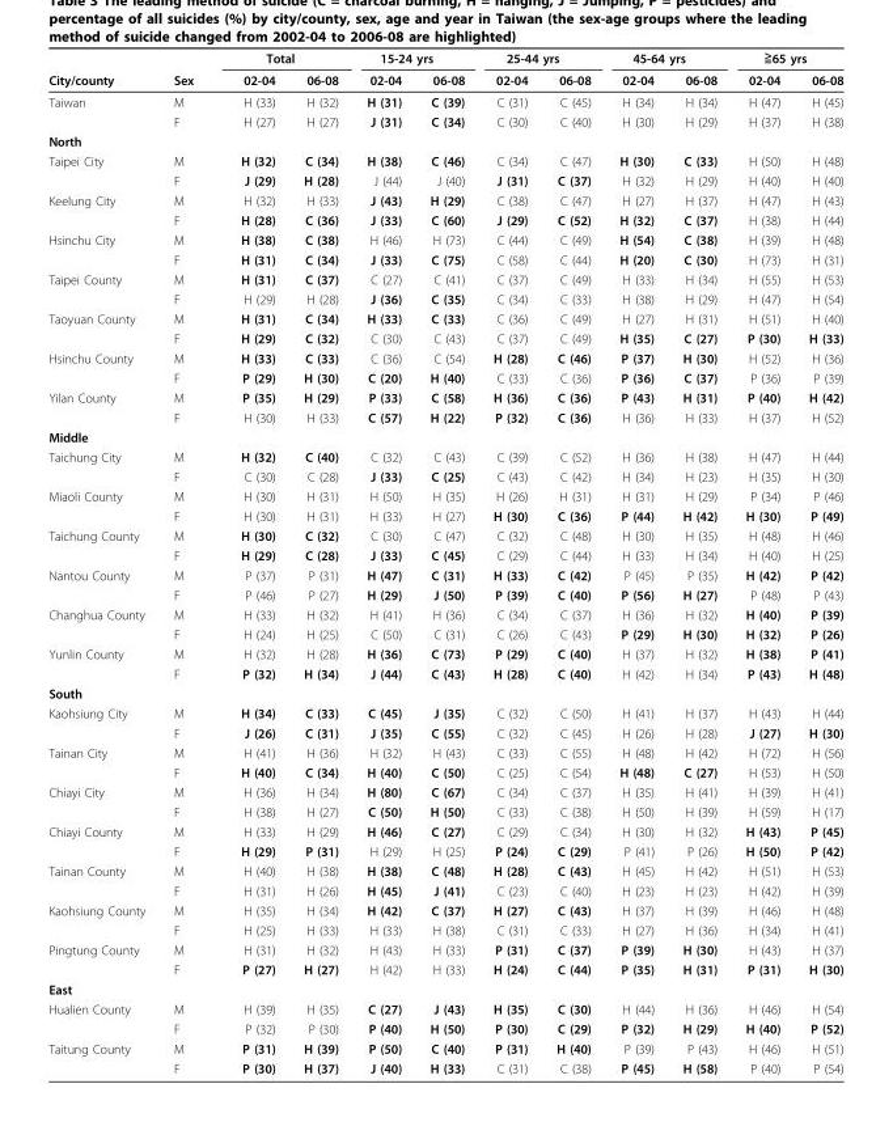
<table><thead><tr><td rowspan="2">City/county</td><td rowspan="2">Sex</td><td colspan="2">Total</td><td colspan="2">15-24 yrs</td><td colspan="2">25-44 yrs</td><td colspan="2">45-64 yrs</td><td colspan="2">≧65 yrs</td></tr><tr><td>02-04</td><td>06-08</td><td>02-04</td><td>06-08</td><td>02-04</td><td>06-08</td><td>02-04</td><td>06-08</td><td>02-04</td><td>06-08</td></tr></thead><tbody><tr><td rowspan="2">Taiwan</td><td>M</td><td>H (33)</td><td>H (32)</td><td>H (31)</td><td>C (39)</td><td>C (31)</td><td>C (45)</td><td>H (34)</td><td>H (34)</td><td>H (47)</td><td>H (45)</td></tr><tr><td>F</td><td>H (27)</td><td>H (27)</td><td>J (31)</td><td>C (34)</td><td>C (30)</td><td>C (40)</td><td>H (30)</td><td>H (29)</td><td>H (37)</td><td>H (38)</td></tr><tr><td colspan="12">North</td></tr><tr><td rowspan="2">Taipei City</td><td>M</td><td>H (32)</td><td>C (34)</td><td>H (38)</td><td>C (46)</td><td>C (34)</td><td>C (47)</td><td>H (30)</td><td>C (33)</td><td>H (50)</td><td>H (48)</td></tr><tr><td>F</td><td>J (29)</td><td>H (28)</td><td>J (44)</td><td>J (40)</td><td>J (31)</td><td>C (37)</td><td>H (32)</td><td>H (29)</td><td>H (40)</td><td>H (40)</td></tr><tr><td rowspan="2">Keelung City</td><td>M</td><td>H (32)</td><td>H (33)</td><td>J (43)</td><td>H (29)</td><td>C (38)</td><td>C (47)</td><td>H (27)</td><td>H (37)</td><td>H (47)</td><td>H (43)</td></tr><tr><td>F</td><td>H (28)</td><td>C (36)</td><td>J (33)</td><td>C (60)</td><td>J (29)</td><td>C (52)</td><td>H (32)</td><td>C (37)</td><td>H (38)</td><td>H (44)</td></tr><tr><td rowspan="2">Hsinchu City</td><td>M</td><td>H (38)</td><td>C (38)</td><td>H (46)</td><td>H (73)</td><td>C (44)</td><td>C (49)</td><td>H (54)</td><td>C (38)</td><td>H (39)</td><td>H (48)</td></tr><tr><td>F</td><td>H (31)</td><td>C (34)</td><td>J (33)</td><td>C (75)</td><td>C (58)</td><td>C (44)</td><td>H (20)</td><td>C (30)</td><td>H (73)</td><td>H (31)</td></tr><tr><td rowspan="2">Taipei County</td><td>M</td><td>H (31)</td><td>C (37)</td><td>C (27)</td><td>C (41)</td><td>C (37)</td><td>C (49)</td><td>H (33)</td><td>H (34)</td><td>H (55)</td><td>H (53)</td></tr><tr><td>F</td><td>H (29)</td><td>H (28)</td><td>J (36)</td><td>C (35)</td><td>C (34)</td><td>C (33)</td><td>H (38)</td><td>H (29)</td><td>H (47)</td><td>H (54)</td></tr><tr><td rowspan="2">Taoyuan County</td><td>M</td><td>H (31)</td><td>C (34)</td><td>H (33)</td><td>C (33)</td><td>C (36)</td><td>C (49)</td><td>H (27)</td><td>H (31)</td><td>H (51)</td><td>H (40)</td></tr><tr><td>F</td><td>H (29)</td><td>C (32)</td><td>C (30)</td><td>C (43)</td><td>C (37)</td><td>C (49)</td><td>H (35)</td><td>C (27)</td><td>P (30)</td><td>H (33)</td></tr><tr><td rowspan="2">Hsinchu County</td><td>M</td><td>H (33)</td><td>C (33)</td><td>C (36)</td><td>C (54)</td><td>H (28)</td><td>C (46)</td><td>P (37)</td><td>H (30)</td><td>H (52)</td><td>H (36)</td></tr><tr><td>F</td><td>P (29)</td><td>H (30)</td><td>C (20)</td><td>H (40)</td><td>C (33)</td><td>C (36)</td><td>P (36)</td><td>C (37)</td><td>P (36)</td><td>P (39)</td></tr><tr><td rowspan="2">Yilan County</td><td>M</td><td>P (35)</td><td>H (29)</td><td>P (33)</td><td>C (58)</td><td>H (36)</td><td>C (36)</td><td>P (43)</td><td>H (31)</td><td>P (40)</td><td>H (42)</td></tr><tr><td>F</td><td>H (30)</td><td>H (33)</td><td>C (57)</td><td>H (22)</td><td>P (32)</td><td>C (36)</td><td>H (36)</td><td>H (33)</td><td>H (37)</td><td>H (52)</td></tr><tr><td colspan="12">Middle</td></tr><tr><td rowspan="2">Taichung City</td><td>M</td><td>H (32)</td><td>C (40)</td><td>C (32)</td><td>C (43)</td><td>C (39)</td><td>C (52)</td><td>H (36)</td><td>H (38)</td><td>H (47)</td><td>H (44)</td></tr><tr><td>F</td><td>C (30)</td><td>C (28)</td><td>J (33)</td><td>C (25)</td><td>C (43)</td><td>C (42)</td><td>H (34)</td><td>H (23)</td><td>H (35)</td><td>H (30)</td></tr><tr><td rowspan="2">Miaoli County</td><td>M</td><td>H (30)</td><td>H (31)</td><td>H (50)</td><td>H (35)</td><td>H (26)</td><td>H (31)</td><td>H (31)</td><td>H (29)</td><td>P (34)</td><td>P (46)</td></tr><tr><td>F</td><td>H (30)</td><td>H (31)</td><td>H (33)</td><td>H (27)</td><td>H (30)</td><td>C (36)</td><td>P (44)</td><td>H (42)</td><td>H (30)</td><td>P (49)</td></tr><tr><td rowspan="2">Taichung County</td><td>M</td><td>H (30)</td><td>C (32)</td><td>C (30)</td><td>C (47)</td><td>C (32)</td><td>C (48)</td><td>H (30)</td><td>H (35)</td><td>H (48)</td><td>H (46)</td></tr><tr><td>F</td><td>H (29)</td><td>C (28)</td><td>J (33)</td><td>C (45)</td><td>C (29)</td><td>C (44)</td><td>H (33)</td><td>H (34)</td><td>H (40)</td><td>H (25)</td></tr><tr><td rowspan="2">Nantou County</td><td>M</td><td>P (37)</td><td>P (31)</td><td>H (47)</td><td>C (31)</td><td>H (33)</td><td>C (42)</td><td>P (45)</td><td>P (35)</td><td>H (42)</td><td>P (42)</td></tr><tr><td>F</td><td>P (46)</td><td>P (27)</td><td>H (29)</td><td>J (50)</td><td>P (39)</td><td>C (40)</td><td>P (56)</td><td>H (27)</td><td>P (48)</td><td>P (43)</td></tr><tr><td rowspan="2">Changhua County</td><td>M</td><td>H (33)</td><td>H (32)</td><td>H (41)</td><td>H (36)</td><td>C (34)</td><td>C (37)</td><td>H (36)</td><td>H (32)</td><td>H (40)</td><td>P (39)</td></tr><tr><td>F</td><td>H (24)</td><td>H (25)</td><td>C (50)</td><td>C (31)</td><td>C (26)</td><td>C (43)</td><td>P (29)</td><td>H (30)</td><td>H (32)</td><td>P (26)</td></tr><tr><td rowspan="2">Yunlin County</td><td>M</td><td>H (32)</td><td>H (28)</td><td>H (36)</td><td>C (73)</td><td>P (29)</td><td>C (40)</td><td>H (37)</td><td>H (32)</td><td>H (38)</td><td>P (41)</td></tr><tr><td>F</td><td>P (32)</td><td>H (34)</td><td>J (44)</td><td>C (43)</td><td>H (28)</td><td>C (40)</td><td>H (42)</td><td>H (34)</td><td>P (43)</td><td>H (48)</td></tr><tr><td colspan="12">South</td></tr><tr><td rowspan="2">Kaohsiung City</td><td>M</td><td>H (34)</td><td>C (33)</td><td>C (45)</td><td>J (35)</td><td>C (32)</td><td>C (50)</td><td>H (41)</td><td>H (37)</td><td>H (43)</td><td>H (44)</td></tr><tr><td>F</td><td>J (26)</td><td>C (31)</td><td>J (35)</td><td>C (55)</td><td>C (32)</td><td>C (45)</td><td>H (26)</td><td>H (28)</td><td>J (27)</td><td>H (30)</td></tr><tr><td rowspan="2">Tainan City</td><td>M</td><td>H (41)</td><td>H (36)</td><td>H (32)</td><td>H (43)</td><td>C (33)</td><td>C (55)</td><td>H (48)</td><td>H (42)</td><td>H (72)</td><td>H (56)</td></tr><tr><td>F</td><td>H (40)</td><td>C (34)</td><td>H (40)</td><td>C (50)</td><td>C (25)</td><td>C (54)</td><td>H (48)</td><td>C (27)</td><td>H (53)</td><td>H (50)</td></tr><tr><td rowspan="2">Chiayi City</td><td>M</td><td>H (36)</td><td>H (34)</td><td>H (80)</td><td>C (67)</td><td>C (34)</td><td>C (37)</td><td>H (35)</td><td>H (41)</td><td>H (39)</td><td>H (41)</td></tr><tr><td>F</td><td>H (38)</td><td>H (27)</td><td>C (50)</td><td>H (50)</td><td>C (33)</td><td>C (38)</td><td>H (50)</td><td>H (39)</td><td>H (59)</td><td>H (17)</td></tr><tr><td rowspan="2">Chiayi County</td><td>M</td><td>H (33)</td><td>H (29)</td><td>H (46)</td><td>C (27)</td><td>C (29)</td><td>C (34)</td><td>H (30)</td><td>H (32)</td><td>H (43)</td><td>P (45)</td></tr><tr><td>F</td><td>H (29)</td><td>P (31)</td><td>H (29)</td><td>H (25)</td><td>P (24)</td><td>C (29)</td><td>P (41)</td><td>P (26)</td><td>H (50)</td><td>P (42)</td></tr><tr><td rowspan="2">Tainan County</td><td>M</td><td>H (40)</td><td>H (38)</td><td>H (38)</td><td>C (48)</td><td>H (28)</td><td>C (43)</td><td>H (45)</td><td>H (42)</td><td>H (51)</td><td>H (53)</td></tr><tr><td>F</td><td>H (31)</td><td>H (26)</td><td>H (45)</td><td>J (41)</td><td>C (23)</td><td>C (40)</td><td>H (23)</td><td>H (23)</td><td>H (42)</td><td>H (39)</td></tr><tr><td rowspan="2">Kaohsiung County</td><td>M</td><td>H (35)</td><td>H (34)</td><td>H (42)</td><td>C (37)</td><td>H (27)</td><td>C (43)</td><td>H (37)</td><td>H (39)</td><td>H (46)</td><td>H (48)</td></tr><tr><td>F</td><td>H (25)</td><td>H (33)</td><td>H (33)</td><td>H (38)</td><td>C (31)</td><td>C (33)</td><td>H (27)</td><td>H (36)</td><td>H (34)</td><td>H (41)</td></tr><tr><td rowspan="2">Pingtung County</td><td>M</td><td>H (31)</td><td>H (32)</td><td>H (43)</td><td>H (33)</td><td>P (31)</td><td>C (37)</td><td>P (39)</td><td>H (30)</td><td>H (43)</td><td>H (37)</td></tr><tr><td>F</td><td>P (27)</td><td>H (27)</td><td>H (42)</td><td>H (33)</td><td>H (24)</td><td>C (44)</td><td>P (35)</td><td>H (31)</td><td>P (31)</td><td>H (30)</td></tr><tr><td colspan="12">East</td></tr><tr><td rowspan="2">Hualien County</td><td>M</td><td>H (39)</td><td>H (35)</td><td>C (27)</td><td>J (43)</td><td>H (35)</td><td>C (30)</td><td>H (44)</td><td>H (36)</td><td>H (46)</td><td>H (54)</td></tr><tr><td>F</td><td>P (32)</td><td>P (30)</td><td>P (40)</td><td>H (50)</td><td>P (30)</td><td>C (29)</td><td>P (32)</td><td>H (29)</td><td>H (40)</td><td>P (52)</td></tr><tr><td rowspan="2">Taitung County</td><td>M</td><td>P (31)</td><td>H (39)</td><td>P (50)</td><td>C (40)</td><td>P (31)</td><td>H (40)</td><td>P (39)</td><td>P (43)</td><td>H (46)</td><td>H (51)</td></tr><tr><td>F</td><td>P (30)</td><td>H (37)</td><td>J (40)</td><td>H (33)</td><td>C (31)</td><td>C (38)</td><td>P (45)</td><td>H (58)</td><td>P (40)</td><td>P (54)</td></tr></tbody></table>